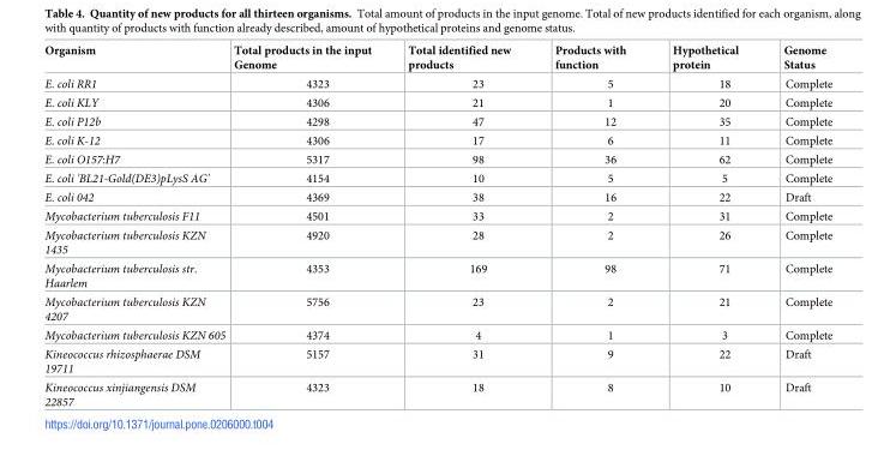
<table><thead><tr><td>Organism</td><td>Total products in the input Genome</td><td>Total identified new products</td><td>Products with function</td><td>Hypothetical protein</td><td>Genome Status</td></tr></thead><tbody><tr><td>E. coli RR1</td><td>4323</td><td>23</td><td>5</td><td>18</td><td>Complete</td></tr><tr><td>E. coli KLY</td><td>4306</td><td>21</td><td>1</td><td>20</td><td>Complete</td></tr><tr><td>E. coli P12b</td><td>4298</td><td>47</td><td>12</td><td>35</td><td>Complete</td></tr><tr><td>E. coli K-12</td><td>4306</td><td>17</td><td>6</td><td>11</td><td>Complete</td></tr><tr><td>E. coli O157:H7</td><td>5317</td><td>98</td><td>36</td><td>62</td><td>Complete</td></tr><tr><td>E. coli &#x27;BL21-Gold(DE3)pLysS AG&#x27;</td><td>4154</td><td>10</td><td>5</td><td>5</td><td>Complete</td></tr><tr><td>E. coli 042</td><td>4369</td><td>38</td><td>16</td><td>22</td><td>Draft</td></tr><tr><td>Mycobacterium tuberculosis F11</td><td>4501</td><td>33</td><td>2</td><td>31</td><td>Complete</td></tr><tr><td>Mycobacterium tuberculosis KZN 1435</td><td>4920</td><td>28</td><td>2</td><td>26</td><td>Complete</td></tr><tr><td>Mycobacterium tuberculosis str. Haarlem</td><td>4353</td><td>169</td><td>98</td><td>71</td><td>Complete</td></tr><tr><td>Mycobacterium tuberculosis KZN 4207</td><td>5756</td><td>23</td><td>2</td><td>21</td><td>Complete</td></tr><tr><td>Mycobacterium tuberculosis KZN 605</td><td>4374</td><td>4</td><td>1</td><td>3</td><td>Complete</td></tr><tr><td>Kineococcus rhizosphaerae DSM 19711</td><td>5157</td><td>31</td><td>9</td><td>22</td><td>Draft</td></tr><tr><td>Kineococcus xinjiangensis DSM 22857</td><td>4323</td><td>18</td><td>8</td><td>10</td><td>Draft</td></tr></tbody></table>